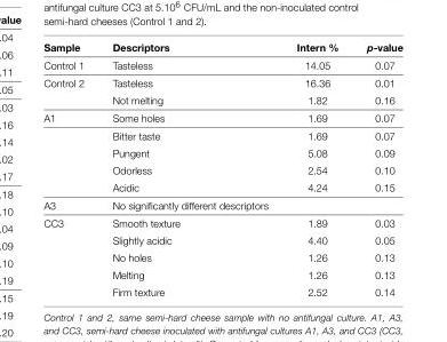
<table><thead><tr><td>Sample</td><td>Descriptors</td><td>Intern %</td><td>p-value</td></tr></thead><tbody><tr><td>Control 1</td><td>Tasteless</td><td>14.05</td><td>0.07</td></tr><tr><td rowspan="2">Control 2</td><td>Tasteless</td><td>16.36</td><td>0.01</td></tr><tr><td>Not melting</td><td>1.82</td><td>0.16</td></tr><tr><td rowspan="5">A1</td><td>Some holes</td><td>1.69</td><td>0.07</td></tr><tr><td>Bitter taste</td><td>1.69</td><td>0.07</td></tr><tr><td>Pungent</td><td>5.08</td><td>0.09</td></tr><tr><td>Odorless</td><td>2.54</td><td>0.10</td></tr><tr><td>Acidic</td><td>4.24</td><td>0.15</td></tr><tr><td>A3</td><td>No significantly different descriptors</td><td></td><td></td></tr><tr><td rowspan="5">CC3</td><td>Smooth texture</td><td>1.89</td><td>0.03</td></tr><tr><td>Slightly acidic</td><td>4.40</td><td>0.05</td></tr><tr><td>No holes</td><td>1.26</td><td>0.13</td></tr><tr><td>Melting</td><td>1.26</td><td>0.13</td></tr><tr><td>Firm texture</td><td>2.52</td><td>0.14</td></tr></tbody></table>